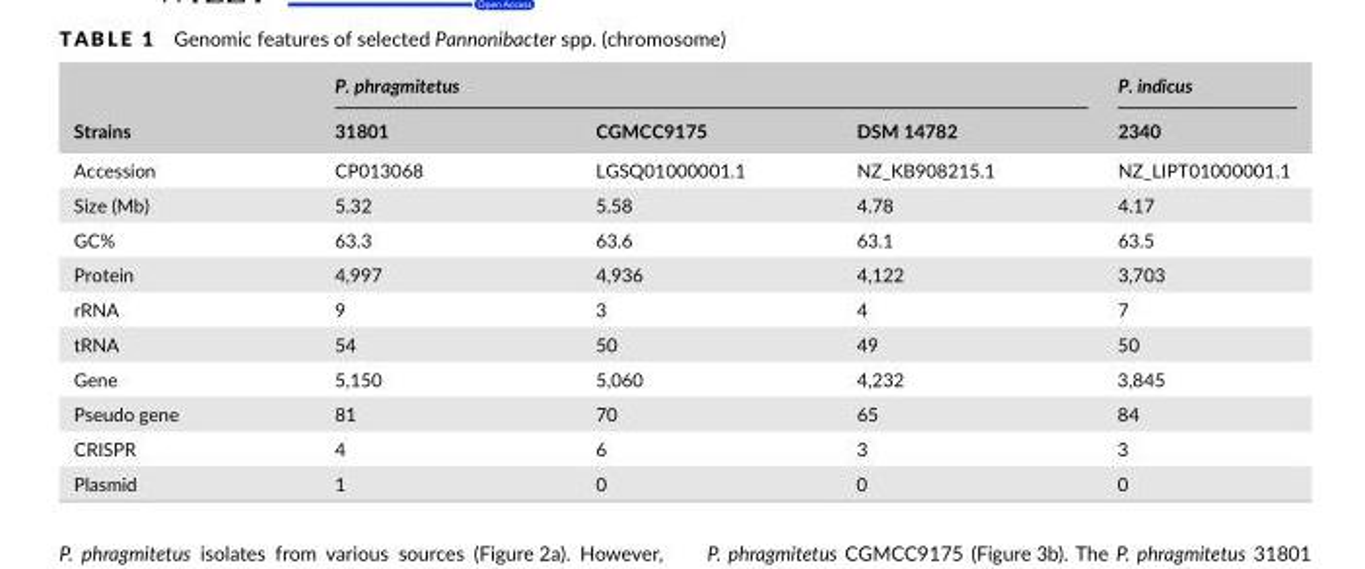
<table><thead><tr><td rowspan="2">Strains</td><td colspan="3">P. phragmitetus</td><td rowspan="2">P. indicus 2340</td></tr><tr><td>31801</td><td>CGMCC9175</td><td>DSM 14782</td></tr></thead><tbody><tr><td>Accession</td><td>CP013068</td><td>LGSQ01000001.1</td><td>NZ_KB908215.1</td><td>NZ_LIPT01000001.1</td></tr><tr><td>Size (Mb)</td><td>5.32</td><td>5.58</td><td>4.78</td><td>4.17</td></tr><tr><td>GC%</td><td>63.3</td><td>63.6</td><td>63.1</td><td>63.5</td></tr><tr><td>Protein</td><td>4,997</td><td>4,936</td><td>4,122</td><td>3,703</td></tr><tr><td>rRNA</td><td>9</td><td>3</td><td>4</td><td>7</td></tr><tr><td>tRNA</td><td>54</td><td>50</td><td>49</td><td>50</td></tr><tr><td>Gene</td><td>5,150</td><td>5,060</td><td>4,232</td><td>3,845</td></tr><tr><td>Pseudo gene</td><td>81</td><td>70</td><td>65</td><td>84</td></tr><tr><td>CRISPR</td><td>4</td><td>6</td><td>3</td><td>3</td></tr><tr><td>Plasmid</td><td>1</td><td>0</td><td>0</td><td>0</td></tr></tbody></table>